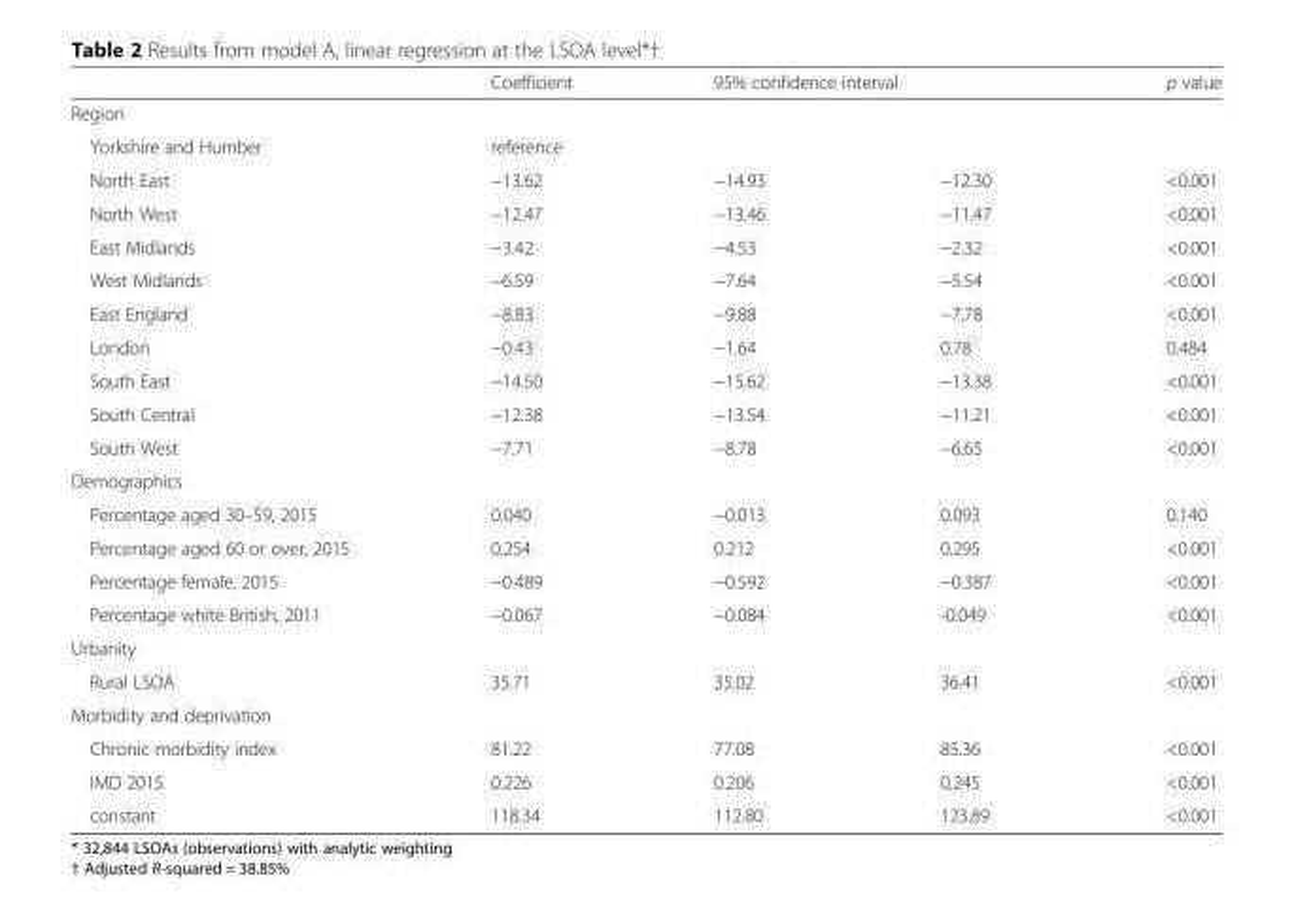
<table><thead><tr><td></td><td>Coefficient</td><td colspan="2">95% confidence interval</td><td>p value</td></tr><tr><td colspan="5">Region</td></tr><tr><td rowspan="2">Yorkshire and Humber North East</td><td colspan="4">reference</td></tr><tr><td>−13.62</td><td>−14.93</td><td>−12.30</td><td>&lt;0.001</td></tr></thead><tbody><tr><td>North West</td><td>−12.47</td><td>−13.46</td><td>−11.47</td><td>&lt;0.001</td></tr><tr><td>East Midlands</td><td>−3.42</td><td>−4.53</td><td>−2.32</td><td>&lt;0.001</td></tr><tr><td>West Midlands</td><td>−6.59</td><td>−7.64</td><td>−5.54</td><td>&lt;0.001</td></tr><tr><td>East England</td><td>−8.83</td><td>−9.88</td><td>−7.78</td><td>&lt;0.001</td></tr><tr><td>London</td><td>−0.43</td><td>−1.64</td><td>0.78</td><td>0.484</td></tr><tr><td>South East</td><td>−14.50</td><td>−15.62</td><td>−13.38</td><td>&lt;0.001</td></tr><tr><td>South Central</td><td>−12.38</td><td>−13.54</td><td>−11.21</td><td>&lt;0.001</td></tr><tr><td>South West</td><td>−7.71</td><td>−8.78</td><td>−6.65</td><td>&lt;0.001</td></tr><tr><td colspan="5">Demographics</td></tr><tr><td>Percentage aged 30–59, 2015</td><td>0.040</td><td>−0.013</td><td>0.093</td><td>0.140</td></tr><tr><td>Percentage aged 60 or over, 2015</td><td>0.254</td><td>0.212</td><td>0.295</td><td>&lt;0.001</td></tr><tr><td>Percentage female, 2015</td><td>−0.489</td><td>−0.592</td><td>−0.387</td><td>&lt;0.001</td></tr><tr><td>Percentage white British, 2011</td><td>−0.067</td><td>−0.084</td><td>-0.049</td><td>&lt;0.001</td></tr><tr><td colspan="5">Urbanity</td></tr><tr><td>Rural LSOA</td><td>35.71</td><td>35.02</td><td>36.41</td><td>&lt;0.001</td></tr><tr><td colspan="5">Morbidity and deprivation</td></tr><tr><td>Chronic morbidity index</td><td>81.22</td><td>77.08</td><td>85.36</td><td>&lt;0.001</td></tr><tr><td>IMD 2015</td><td>0.226</td><td>0.206</td><td>0.245</td><td>&lt;0.001</td></tr><tr><td>constant</td><td>118.34</td><td>112.80</td><td>123.89</td><td>&lt;0.001</td></tr></tbody></table>